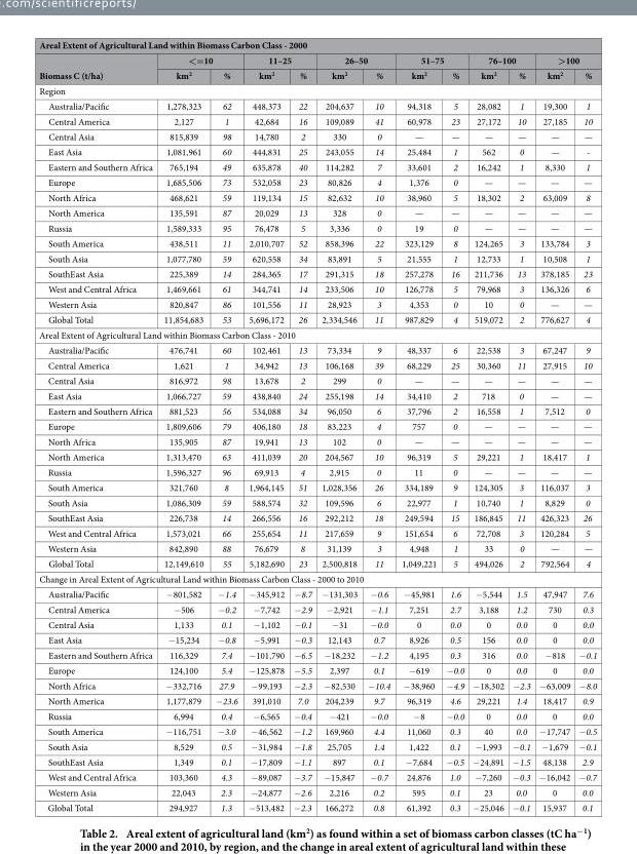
<table><thead><tr><td colspan="13">Areal Extent of Agricultural Land within Biomass Carbon Class - 2000</td></tr><tr><td rowspan="2">Biomass C (t/ha)</td><td colspan="2">&lt;=10</td><td colspan="2">11–25</td><td colspan="2">26–50</td><td colspan="2">51–75</td><td colspan="2">76–100</td><td colspan="2">&gt;100</td></tr><tr><td>km<sup>2</sup></td><td>%</td><td>km<sup>2</sup></td><td>%</td><td>km<sup>2</sup></td><td>%</td><td>km<sup>2</sup></td><td>%</td><td>km<sup>2</sup></td><td>%</td><td>km<sup>2</sup></td><td>%</td></tr></thead><tbody><tr><td colspan="13">Region</td></tr><tr><td>Australia/Pacific</td><td>1,278,323</td><td>62</td><td>448,373</td><td>22</td><td>204,637</td><td>10</td><td>94,318</td><td>5</td><td>28,082</td><td>1</td><td>19,300</td><td>1</td></tr><tr><td>Central America</td><td>2,127</td><td>1</td><td>42,684</td><td>16</td><td>109,089</td><td>41</td><td>60,978</td><td>23</td><td>27,172</td><td>10</td><td>27,185</td><td>10</td></tr><tr><td>Central Asia</td><td>815,839</td><td>98</td><td>14,780</td><td>2</td><td>330</td><td>0</td><td>—</td><td>—</td><td>—</td><td>—</td><td>—</td><td>—</td></tr><tr><td>East Asia</td><td>1,081,961</td><td>60</td><td>444,831</td><td>25</td><td>243,055</td><td>14</td><td>25,484</td><td>1</td><td>562</td><td>0</td><td>—</td><td>-</td></tr><tr><td>Eastern and Southern Africa</td><td>765,194</td><td>49</td><td>635,878</td><td>40</td><td>114,282</td><td>7</td><td>33,601</td><td>2</td><td>16,242</td><td>1</td><td>8,330</td><td>1</td></tr><tr><td>Europe</td><td>1,685,506</td><td>73</td><td>532,058</td><td>23</td><td>80,826</td><td>4</td><td>1,376</td><td>0</td><td>—</td><td>—</td><td>—</td><td>—</td></tr><tr><td>North Africa</td><td>468,621</td><td>59</td><td>119,134</td><td>15</td><td>82,632</td><td>10</td><td>38,960</td><td>5</td><td>18,302</td><td>2</td><td>63,009</td><td>8</td></tr><tr><td>North America</td><td>135,591</td><td>87</td><td>20,029</td><td>13</td><td>328</td><td>0</td><td>—</td><td>—</td><td>—</td><td>—</td><td>—</td><td>—</td></tr><tr><td>Russia</td><td>1,589,333</td><td>95</td><td>76,478</td><td>5</td><td>3,336</td><td>0</td><td>19</td><td>0</td><td>—</td><td>—</td><td>—</td><td>—</td></tr><tr><td>South America</td><td>438,511</td><td>11</td><td>2,010,707</td><td>52</td><td>858,396</td><td>22</td><td>323,129</td><td>8</td><td>124,265</td><td>3</td><td>133,784</td><td>3</td></tr><tr><td>South Asia</td><td>1,077,780</td><td>59</td><td>620,558</td><td>34</td><td>83,891</td><td>5</td><td>21,555</td><td>1</td><td>12,733</td><td>1</td><td>10,508</td><td>1</td></tr><tr><td>SouthEast Asia</td><td>225,389</td><td>14</td><td>284,365</td><td>17</td><td>291,315</td><td>18</td><td>257,278</td><td>16</td><td>211,736</td><td>13</td><td>378,185</td><td>23</td></tr><tr><td>West and Central Africa</td><td>1,469,661</td><td>61</td><td>344,741</td><td>14</td><td>233,506</td><td>10</td><td>126,778</td><td>5</td><td>79,968</td><td>3</td><td>136,326</td><td>6</td></tr><tr><td>Western Asia</td><td>820,847</td><td>86</td><td>101,556</td><td>11</td><td>28,923</td><td>3</td><td>4,353</td><td>0</td><td>10</td><td>0</td><td>—</td><td>—</td></tr><tr><td>Global Total</td><td>11,854,683</td><td>53</td><td>5,696,172</td><td>26</td><td>2,334,546</td><td>11</td><td>987,829</td><td>4</td><td>519,072</td><td>2</td><td>776,627</td><td>4</td></tr><tr><td colspan="13">Areal Extent of Agricultural Land within Biomass Carbon Class - 2010</td></tr><tr><td>Australia/Pacific</td><td>476,741</td><td>60</td><td>102,461</td><td>13</td><td>73,334</td><td>9</td><td>48,337</td><td>6</td><td>22,538</td><td>3</td><td>67,247</td><td>9</td></tr><tr><td>Central America</td><td>1,621</td><td>1</td><td>34,942</td><td>13</td><td>106,168</td><td>39</td><td>68,229</td><td>25</td><td>30,360</td><td>11</td><td>27,915</td><td>10</td></tr><tr><td>Central Asia</td><td>816,972</td><td>98</td><td>13,678</td><td>2</td><td>299</td><td>0</td><td>—</td><td>—</td><td>—</td><td>—</td><td>—</td><td>—</td></tr><tr><td>East Asia</td><td>1,066,727</td><td>59</td><td>438,840</td><td>24</td><td>255,198</td><td>14</td><td>34,410</td><td>2</td><td>718</td><td>0</td><td>—</td><td>—</td></tr><tr><td>Eastern and Southern Africa</td><td>881,523</td><td>56</td><td>534,088</td><td>34</td><td>96,050</td><td>6</td><td>37,796</td><td>2</td><td>16,558</td><td>1</td><td>7,512</td><td>0</td></tr><tr><td>Europe</td><td>1,809,606</td><td>79</td><td>406,180</td><td>18</td><td>83,223</td><td>4</td><td>757</td><td>0</td><td>—</td><td>—</td><td>—</td><td>—</td></tr><tr><td>North Africa</td><td>135,905</td><td>87</td><td>19,941</td><td>13</td><td>102</td><td>0</td><td>—</td><td>—</td><td>—</td><td>—</td><td>—</td><td>—</td></tr><tr><td>North America</td><td>1,313,470</td><td>63</td><td>411,039</td><td>20</td><td>204,567</td><td>10</td><td>96,319</td><td>5</td><td>29,221</td><td>1</td><td>18,417</td><td>1</td></tr><tr><td>Russia</td><td>1,596,327</td><td>96</td><td>69,913</td><td>4</td><td>2,915</td><td>0</td><td>11</td><td>0</td><td>—</td><td>—</td><td>—</td><td>—</td></tr><tr><td>South America</td><td>321,760</td><td>8</td><td>1,964,145</td><td>51</td><td>1,028,356</td><td>26</td><td>334,189</td><td>9</td><td>124,305</td><td>3</td><td>116,037</td><td>3</td></tr><tr><td>South Asia</td><td>1,086,309</td><td>59</td><td>588,574</td><td>32</td><td>109,596</td><td>6</td><td>22,977</td><td>1</td><td>10,740</td><td>1</td><td>8,829</td><td>0</td></tr><tr><td>SouthEast Asia</td><td>226,738</td><td>14</td><td>266,556</td><td>16</td><td>292,212</td><td>18</td><td>249,594</td><td>15</td><td>186,845</td><td>11</td><td>426,323</td><td>26</td></tr><tr><td>West and Central Africa</td><td>1,573,021</td><td>66</td><td>255,654</td><td>11</td><td>217,659</td><td>9</td><td>151,654</td><td>6</td><td>72,708</td><td>3</td><td>120,284</td><td>5</td></tr><tr><td>Western Asia</td><td>842,890</td><td>88</td><td>76,679</td><td>8</td><td>31,139</td><td>3</td><td>4,948</td><td>1</td><td>33</td><td>0</td><td>—</td><td>—</td></tr><tr><td>Global Total</td><td>12,149,610</td><td>55</td><td>5,182,690</td><td>23</td><td>2,500,818</td><td>11</td><td>1,049,221</td><td>5</td><td>494,026</td><td>2</td><td>792,564</td><td>4</td></tr><tr><td colspan="13">Change in Areal Extent of Agricultural Land within Biomass Carbon Class - 2000 to 2010</td></tr><tr><td>Australia/Pacific</td><td>− 801,582</td><td>− 1.4</td><td>− 345,912</td><td>− 8.7</td><td>− 131,303</td><td>− 0.6</td><td>− 45,981</td><td>1.6</td><td>− 5,544</td><td>1.5</td><td>47,947</td><td>7.6</td></tr><tr><td>Central America</td><td>− 506</td><td>− 0.2</td><td>− 7,742</td><td>− 2.9</td><td>− 2,921</td><td>− 1.1</td><td>7,251</td><td>2.7</td><td>3,188</td><td>1.2</td><td>730</td><td>0.3</td></tr><tr><td>Central Asia</td><td>1,133</td><td>0.1</td><td>− 1,102</td><td>− 0.1</td><td>− 31</td><td>− 0.0</td><td>0</td><td>0.0</td><td>0</td><td>0.0</td><td>0</td><td>0.0</td></tr><tr><td>East Asia</td><td>− 15,234</td><td>− 0.8</td><td>− 5,991</td><td>− 0.3</td><td>12,143</td><td>0.7</td><td>8,926</td><td>0.5</td><td>156</td><td>0.0</td><td>0</td><td>0.0</td></tr><tr><td>Eastern and Southern Africa</td><td>116,329</td><td>7.4</td><td>− 101,790</td><td>− 6.5</td><td>− 18,232</td><td>− 1.2</td><td>4,195</td><td>0.3</td><td>316</td><td>0.0</td><td>− 818</td><td>− 0.1</td></tr><tr><td>Europe</td><td>124,100</td><td>5.4</td><td>− 125,878</td><td>− 5.5</td><td>2,397</td><td>0.1</td><td>− 619</td><td>− 0.0</td><td>0</td><td>0.0</td><td>0</td><td>0.0</td></tr><tr><td>North Africa</td><td>− 332,716</td><td>27.9</td><td>− 99,193</td><td>− 2.3</td><td>− 82,530</td><td>− 10.4</td><td>− 38,960</td><td>− 4.9</td><td>− 18,302</td><td>− 2.3</td><td>− 63,009</td><td>− 8.0</td></tr><tr><td>North America</td><td>1,177,879</td><td>− 23.6</td><td>391,010</td><td>7.0</td><td>204,239</td><td>9.7</td><td>96,319</td><td>4.6</td><td>29,221</td><td>1.4</td><td>18,417</td><td>0.9</td></tr><tr><td>Russia</td><td>6,994</td><td>0.4</td><td>− 6,565</td><td>− 0.4</td><td>− 421</td><td>− 0.0</td><td>− 8</td><td>− 0.0</td><td>0</td><td>0.0</td><td>0</td><td>0.0</td></tr><tr><td>South America</td><td>− 116,751</td><td>− 3.0</td><td>− 46,562</td><td>− 1.2</td><td>169,960</td><td>4.4</td><td>11,060</td><td>0.3</td><td>40</td><td>0.0</td><td>− 17,747</td><td>− 0.5</td></tr><tr><td>South Asia</td><td>8,529</td><td>0.5</td><td>− 31,984</td><td>− 1.8</td><td>25,705</td><td>1.4</td><td>1,422</td><td>0.1</td><td>− 1,993</td><td>− 0.1</td><td>− 1,679</td><td>− 0.1</td></tr><tr><td>SouthEast Asia</td><td>1,349</td><td>0.1</td><td>− 17,809</td><td>− 1.1</td><td>897</td><td>0.1</td><td>− 7,684</td><td>− 0.5</td><td>− 24,891</td><td>− 1.5</td><td>48,138</td><td>2.9</td></tr><tr><td>West and Central Africa</td><td>103,360</td><td>4.3</td><td>− 89,087</td><td>− 3.7</td><td>− 15,847</td><td>− 0.7</td><td>24,876</td><td>1.0</td><td>− 7,260</td><td>− 0.3</td><td>− 16,042</td><td>− 0.7</td></tr><tr><td>Western Asia</td><td>22,043</td><td>2.3</td><td>− 24,877</td><td>− 2.6</td><td>2,216</td><td>0.2</td><td>595</td><td>0.1</td><td>23</td><td>0.0</td><td>0</td><td>0.0</td></tr><tr><td>Global Total</td><td>294,927</td><td>1.3</td><td>− 513,482</td><td>− 2.3</td><td>166,272</td><td>0.8</td><td>61,392</td><td>0.3</td><td>− 25,046</td><td>− 0.1</td><td>15,937</td><td>0.1</td></tr></tbody></table>